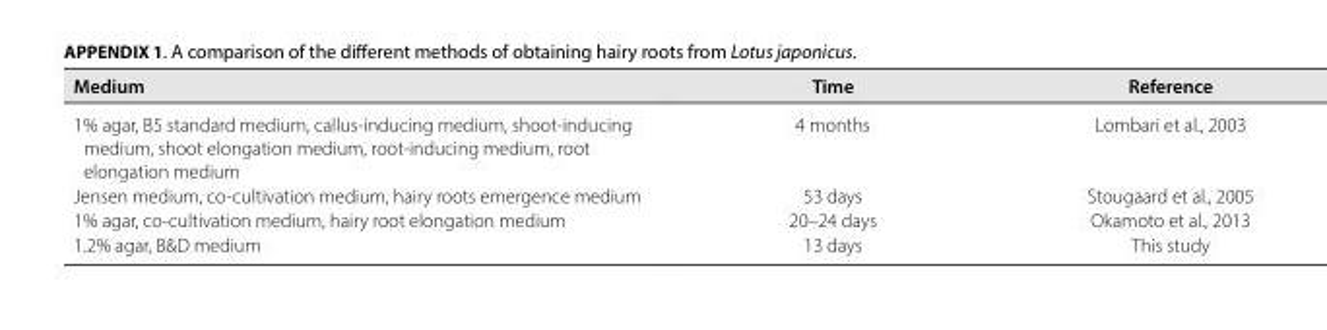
<table><thead><tr><td>Medium</td><td>Time</td><td>Reference</td></tr></thead><tbody><tr><td>1% agar, B5 standard medium, callus- inducing medium, shoot- inducing medium, shoot elongation medium, root- inducing medium, root elongation medium</td><td>4 months</td><td>Lombari et al., 2003</td></tr><tr><td>Jensen medium, co- cultivation medium, hairy roots emergence medium</td><td>53 days</td><td>Stougaard et al., 2005</td></tr><tr><td>1% agar, co- cultivation medium, hairy root elongation medium</td><td>20–24 days</td><td>Okamoto et al., 2013</td></tr><tr><td>1.2% agar, B&amp;D medium</td><td>13 days</td><td>This study</td></tr></tbody></table>